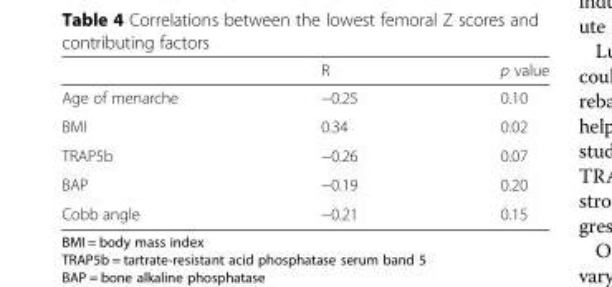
<table><thead><tr><td></td><td>R</td><td>p value</td></tr></thead><tbody><tr><td>Age of menarche</td><td>−0.25</td><td>0.10</td></tr><tr><td>BMI</td><td>0.34</td><td>0.02</td></tr><tr><td>TRAP5b</td><td>−0.26</td><td>0.07</td></tr><tr><td>BAP</td><td>−0.19</td><td>0.20</td></tr><tr><td>Cobb angle</td><td>−0.21</td><td>0.15</td></tr></tbody></table>